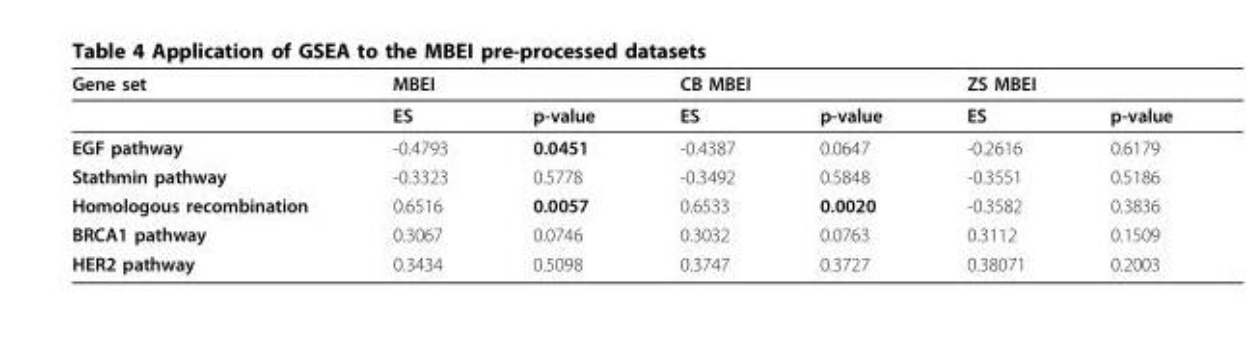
<table><thead><tr><td rowspan="2">Gene set</td><td colspan="2">MBEI</td><td colspan="2">CB MBEI</td><td colspan="2">ZS MBEI</td></tr><tr><td>ES</td><td>p-value</td><td>ES</td><td>p-value</td><td>ES</td><td>p-value</td></tr></thead><tbody><tr><td>EGF pathway</td><td>-0.4793</td><td>0.0451</td><td>-0.4387</td><td>0.0647</td><td>-0.2616</td><td>0.6179</td></tr><tr><td>Stathmin pathway</td><td>-0.3323</td><td>0.5778</td><td>-0.3492</td><td>0.5848</td><td>-0.3551</td><td>0.5186</td></tr><tr><td>Homologous recombination</td><td>0.6516</td><td>0.0057</td><td>0.6533</td><td>0.0020</td><td>-0.3582</td><td>0.3836</td></tr><tr><td>BRCA1 pathway</td><td>0.3067</td><td>0.0746</td><td>0.3032</td><td>0.0763</td><td>0.3112</td><td>0.1509</td></tr><tr><td>HER2 pathway</td><td>0.3434</td><td>0.5098</td><td>0.3747</td><td>0.3727</td><td>0.38071</td><td>0.2003</td></tr></tbody></table>